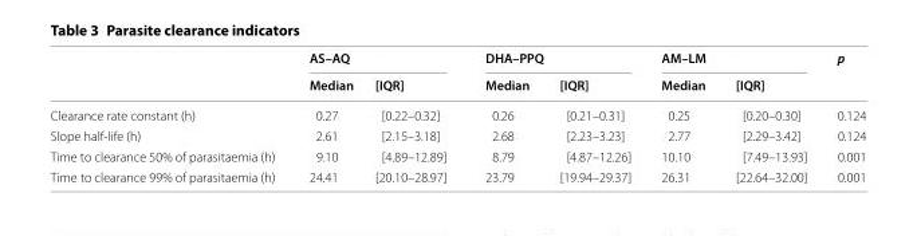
<table><thead><tr><td rowspan="2"></td><td colspan="2">AS–AQ</td><td colspan="2">DHA–PPQ</td><td colspan="2">AM–LM</td><td rowspan="2">p</td></tr><tr><td>Median</td><td>[IQR]</td><td>Median</td><td>[IQR]</td><td>Median</td><td>[IQR]</td></tr></thead><tbody><tr><td>Clearance rate constant (h)</td><td>0.27</td><td>[0.22–0.32]</td><td>0.26</td><td>[0.21–0.31]</td><td>0.25</td><td>[0.20–0.30]</td><td>0.124</td></tr><tr><td>Slope half‑life (h)</td><td>2.61</td><td>[2.15–3.18]</td><td>2.68</td><td>[2.23–3.23]</td><td>2.77</td><td>[2.29–3.42]</td><td>0.124</td></tr><tr><td>Time to clearance 50% of parasitaemia (h)</td><td>9.10</td><td>[4.89–12.89]</td><td>8.79</td><td>[4.87–12.26]</td><td>10.10</td><td>[7.49–13.93]</td><td>0.001</td></tr><tr><td>Time to clearance 99% of parasitaemia (h)</td><td>24.41</td><td>[20.10–28.97]</td><td>23.79</td><td>[19.94–29.37]</td><td>26.31</td><td>[22.64–32.00]</td><td>0.001</td></tr></tbody></table>